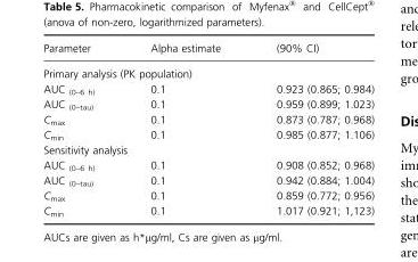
<table><thead><tr><td>Parameter</td><td>Alpha estimate</td><td>(90% CI)</td></tr></thead><tbody><tr><td colspan="3">Primary analysis (PK population)</td></tr><tr><td>AUC <sub>(0–6 h)</sub></td><td>0.1</td><td>0.923 (0.865; 0.984)</td></tr><tr><td>AUC <sub>(0–tau)</sub></td><td>0.1</td><td>0.959 (0.899; 1.023)</td></tr><tr><td>C<sub>max</sub></td><td>0.1</td><td>0.873 (0.787; 0.968)</td></tr><tr><td>C<sub>min</sub></td><td>0.1</td><td>0.985 (0.877; 1.106)</td></tr><tr><td colspan="3">Sensitivity analysis</td></tr><tr><td>AUC <sub>(0–6 h)</sub></td><td>0.1</td><td>0.908 (0.852; 0.968)</td></tr><tr><td>AUC <sub>(0–tau)</sub></td><td>0.1</td><td>0.942 (0.884; 1.004)</td></tr><tr><td>C<sub>max</sub></td><td>0.1</td><td>0.859 (0.772; 0.956)</td></tr><tr><td>C<sub>min</sub></td><td>0.1</td><td>1.017 (0.921; 1,123)</td></tr></tbody></table>